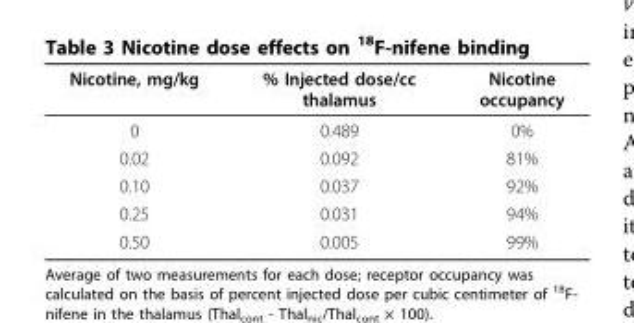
<table><thead><tr><td>Nicotine, mg/kg</td><td>% Injected dose/cc thalamus</td><td>Nicotine occupancy</td></tr></thead><tbody><tr><td>0</td><td>0.489</td><td>0%</td></tr><tr><td>0.02</td><td>0.092</td><td>81%</td></tr><tr><td>0.10</td><td>0.037</td><td>92%</td></tr><tr><td>0.25</td><td>0.031</td><td>94%</td></tr><tr><td>0.50</td><td>0.005</td><td>99%</td></tr></tbody></table>